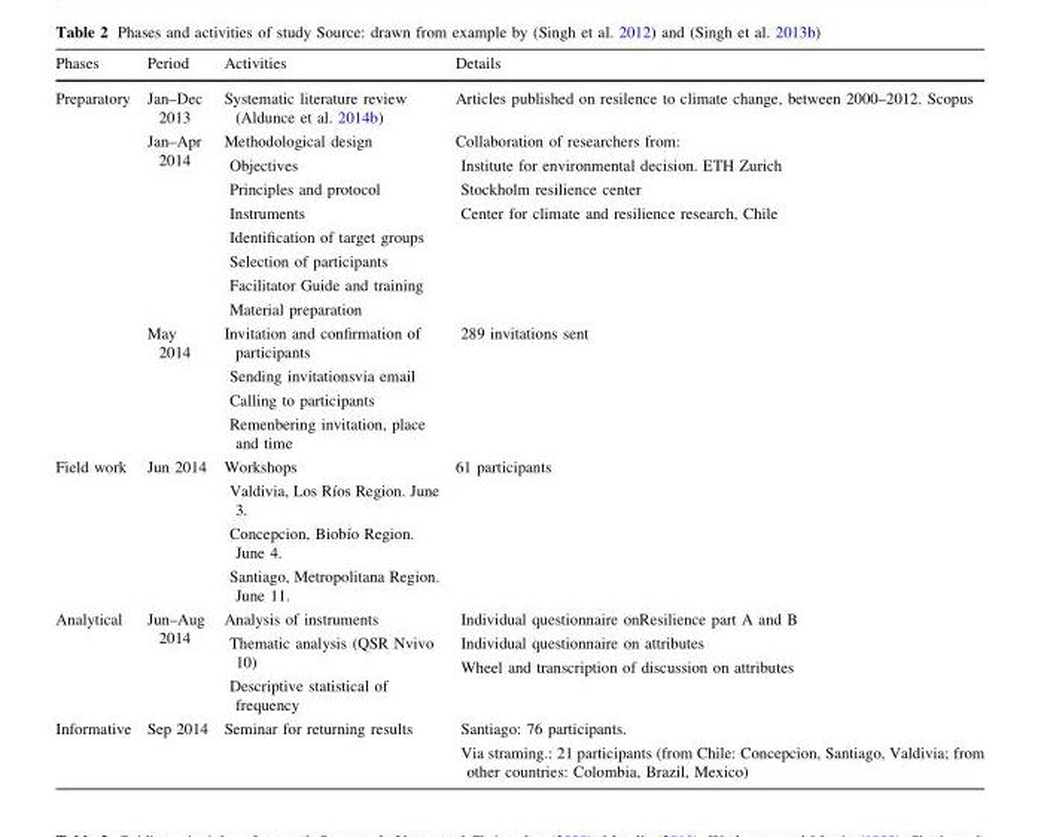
<table><thead><tr><td>Phases</td><td>Period</td><td>Activities</td><td>Details</td></tr></thead><tbody><tr><td rowspan="3">Preparatory</td><td>Jan–Dec 2013</td><td>Systematic literature review (Aldunce et al. 2014b)</td><td>Articles published on resilence to climate change, between 2000–2012. Scopus</td></tr><tr><td>Jan–Apr 2014</td><td>Methodological design Objectives Principles and protocol Instruments Identification of target groups Selection of participants Facilitator Guide and training Material preparation</td><td>Collaboration of researchers from: Institute for environmental decision. ETH Zurich Stockholm resilience center Center for climate and resilience research, Chile</td></tr><tr><td>May 2014</td><td>Invitation and confirmation of participants Sending invitationsvia email Calling to participants Remenbering invitation, place and time</td><td>289 invitations sent</td></tr><tr><td>Field work</td><td>Jun 2014</td><td>Workshops Valdivia, Los Rı´os Region. June 3. Concepcion, Biobı´o Region. June 4. Santiago, Metropolitana Region. June 11.</td><td>61 participants</td></tr><tr><td>Analytical</td><td>Jun–Aug 2014</td><td>Analysis of instruments Thematic analysis (QSR Nvivo 10) Descriptive statistical of frequency</td><td>Individual questionnaire onResilience part A and B Individual questionnaire on attributes Wheel and transcription of discussion on attributes</td></tr><tr><td>Informative</td><td>Sep 2014</td><td>Seminar for returning results</td><td>Santiago: 76 participants. Via straming.: 21 participants (from Chile: Concepcion, Santiago, Valdivia; from other countries: Colombia, Brazil, Mexico)</td></tr></tbody></table>